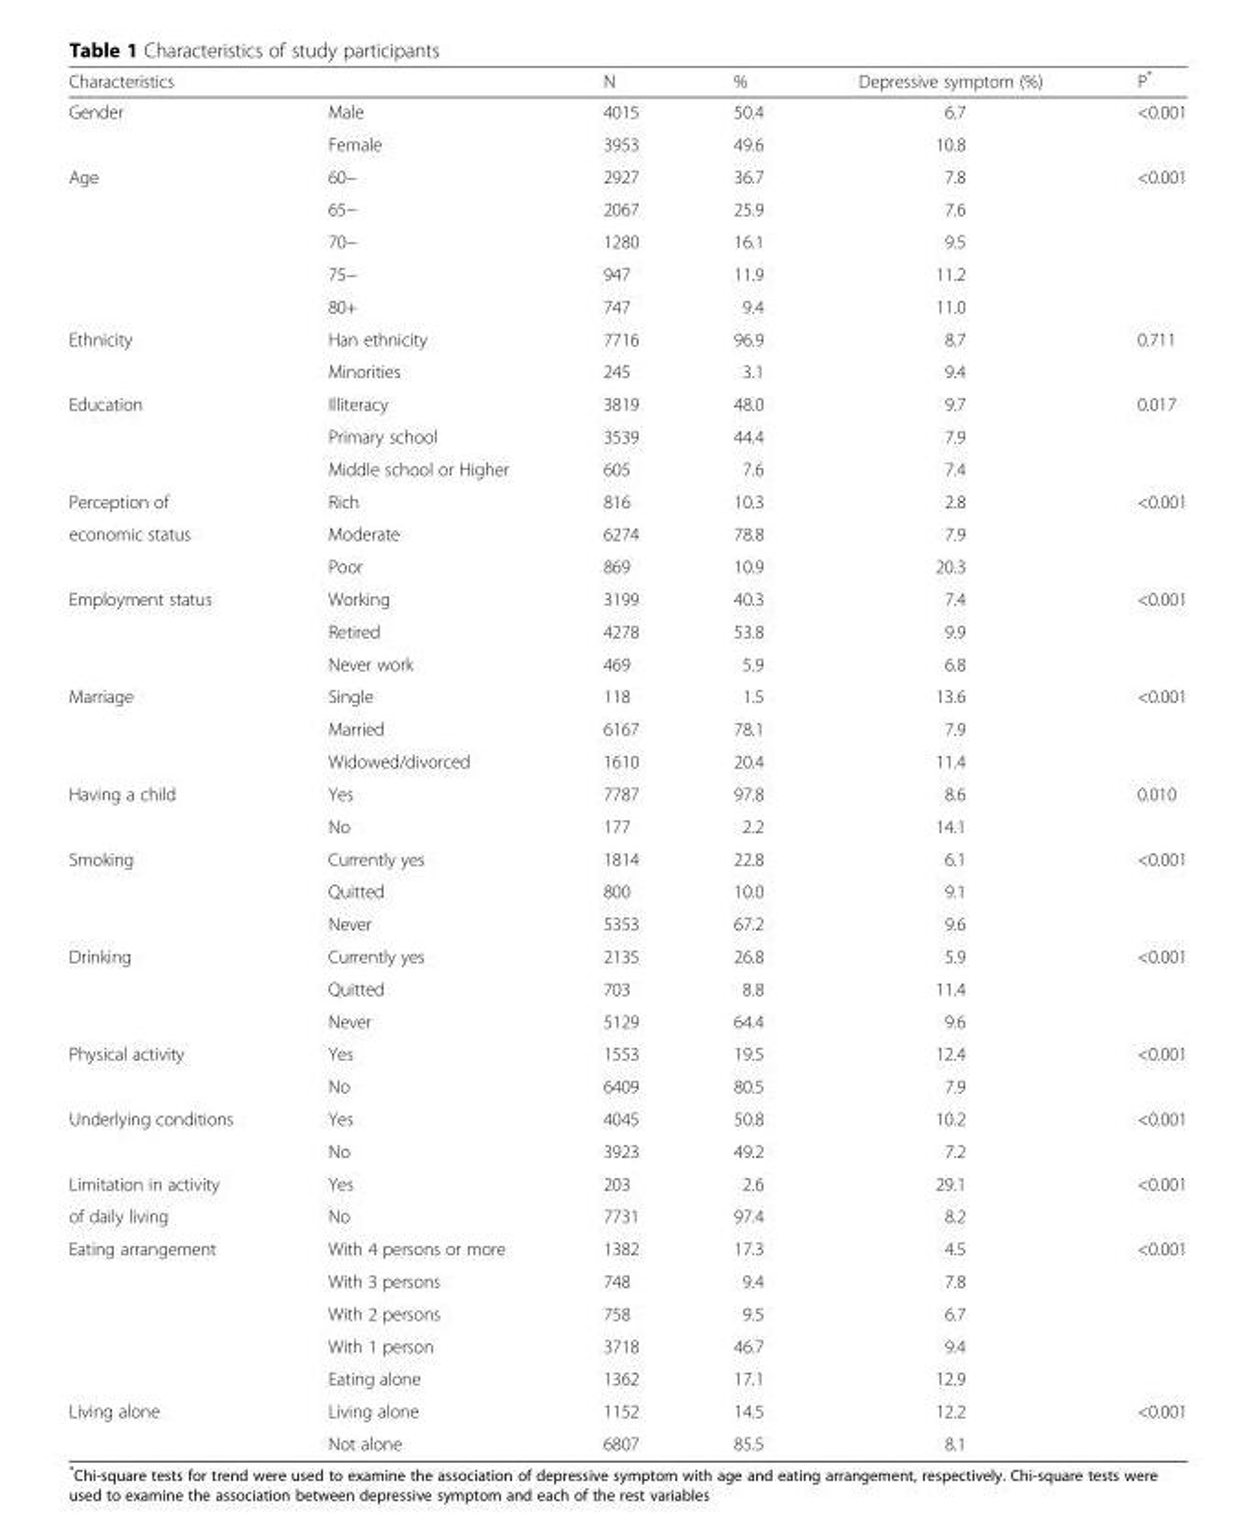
<table><thead><tr><td colspan="2">Characteristics</td><td rowspan="2">N 4015</td><td rowspan="2">% 50.4</td><td rowspan="2">Depressive symptom (%) 6.7</td><td rowspan="2">P* &lt;0.001</td></tr><tr><td>Gender</td><td>Male</td></tr></thead><tbody><tr><td></td><td>Female</td><td>3953</td><td>49.6</td><td>10.8</td><td></td></tr><tr><td rowspan="5">Age</td><td>60−</td><td>2927</td><td>36.7</td><td>7.8</td><td>&lt;0.001</td></tr><tr><td>65−</td><td>2067</td><td>25.9</td><td>7.6</td><td></td></tr><tr><td>70−</td><td>1280</td><td>16.1</td><td>9.5</td><td></td></tr><tr><td>75−</td><td>947</td><td>11.9</td><td>11.2</td><td></td></tr><tr><td>80+</td><td>747</td><td>9.4</td><td>11.0</td><td></td></tr><tr><td rowspan="2">Ethnicity</td><td>Han ethnicity</td><td>7716</td><td>96.9</td><td>8.7</td><td>0.711</td></tr><tr><td>Minorities</td><td>245</td><td>3.1</td><td>9.4</td><td></td></tr><tr><td rowspan="3">Education</td><td>Illiteracy</td><td>3819</td><td>48.0</td><td>9.7</td><td>0.017</td></tr><tr><td>Primary school</td><td>3539</td><td>44.4</td><td>7.9</td><td></td></tr><tr><td>Middle school or Higher</td><td>605</td><td>7.6</td><td>7.4</td><td></td></tr><tr><td>Perception of</td><td>Rich</td><td>816</td><td>10.3</td><td>2.8</td><td>&lt;0.001</td></tr><tr><td rowspan="2">economic status</td><td>Moderate</td><td>6274</td><td>78.8</td><td>7.9</td><td></td></tr><tr><td>Poor</td><td>869</td><td>10.9</td><td>20.3</td><td></td></tr><tr><td rowspan="3">Employment status</td><td>Working</td><td>3199</td><td>40.3</td><td>7.4</td><td>&lt;0.001</td></tr><tr><td>Retired</td><td>4278</td><td>53.8</td><td>9.9</td><td></td></tr><tr><td>Never work</td><td>469</td><td>5.9</td><td>6.8</td><td></td></tr><tr><td rowspan="3">Marriage</td><td>Single</td><td>118</td><td>1.5</td><td>13.6</td><td>&lt;0.001</td></tr><tr><td>Married</td><td>6167</td><td>78.1</td><td>7.9</td><td></td></tr><tr><td>Widowed/divorced</td><td>1610</td><td>20.4</td><td>11.4</td><td></td></tr><tr><td rowspan="2">Having a child</td><td>Yes</td><td>7787</td><td>97.8</td><td>8.6</td><td>0.010</td></tr><tr><td>No</td><td>177</td><td>2.2</td><td>14.1</td><td></td></tr><tr><td rowspan="3">Smoking</td><td>Currently yes</td><td>1814</td><td>22.8</td><td>6.1</td><td>&lt;0.001</td></tr><tr><td>Quitted</td><td>800</td><td>10.0</td><td>9.1</td><td></td></tr><tr><td>Never</td><td>5353</td><td>67.2</td><td>9.6</td><td></td></tr><tr><td rowspan="3">Drinking</td><td>Currently yes</td><td>2135</td><td>26.8</td><td>5.9</td><td>&lt;0.001</td></tr><tr><td>Quitted</td><td>703</td><td>8.8</td><td>11.4</td><td></td></tr><tr><td>Never</td><td>5129</td><td>64.4</td><td>9.6</td><td></td></tr><tr><td rowspan="2">Physical activity</td><td>Yes</td><td>1553</td><td>19.5</td><td>12.4</td><td>&lt;0.001</td></tr><tr><td>No</td><td>6409</td><td>80.5</td><td>7.9</td><td></td></tr><tr><td rowspan="2">Underlying conditions</td><td>Yes</td><td>4045</td><td>50.8</td><td>10.2</td><td>&lt;0.001</td></tr><tr><td>No</td><td>3923</td><td>49.2</td><td>7.2</td><td></td></tr><tr><td>Limitation in activity</td><td>Yes</td><td>203</td><td>2.6</td><td>29.1</td><td>&lt;0.001</td></tr><tr><td>of daily living</td><td>No</td><td>7731</td><td>97.4</td><td>8.2</td><td></td></tr><tr><td rowspan="5">Eating arrangement</td><td>With 4 persons or more</td><td>1382</td><td>17.3</td><td>4.5</td><td>&lt;0.001</td></tr><tr><td>With 3 persons</td><td>748</td><td>9.4</td><td>7.8</td><td></td></tr><tr><td>With 2 persons</td><td>758</td><td>9.5</td><td>6.7</td><td></td></tr><tr><td>With 1 person</td><td>3718</td><td>46.7</td><td>9.4</td><td></td></tr><tr><td>Eating alone</td><td>1362</td><td>17.1</td><td>12.9</td><td></td></tr><tr><td rowspan="2">Living alone</td><td>Living alone</td><td>1152</td><td>14.5</td><td>12.2</td><td>&lt;0.001</td></tr><tr><td>Not alone</td><td>6807</td><td>85.5</td><td>8.1</td><td></td></tr></tbody></table>